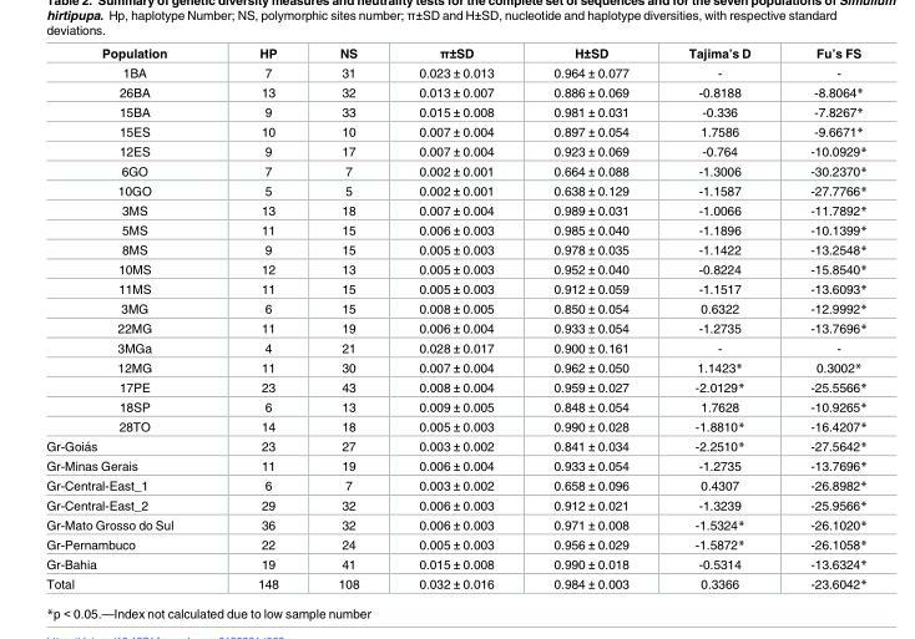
<table><thead><tr><td>Population</td><td>HP</td><td>NS</td><td>π±SD</td><td>H±SD</td><td>Tajima’s D</td><td>Fu’s FS</td></tr></thead><tbody><tr><td>1BA</td><td>7</td><td>31</td><td>0.023 ± 0.013</td><td>0.964 ± 0.077</td><td>-</td><td>-</td></tr><tr><td>26BA</td><td>13</td><td>32</td><td>0.013 ± 0.007</td><td>0.886 ± 0.069</td><td>-0.8188</td><td>-8.8064*</td></tr><tr><td>15BA</td><td>9</td><td>33</td><td>0.015 ± 0.008</td><td>0.981 ± 0.031</td><td>-0.336</td><td>-7.8267*</td></tr><tr><td>15ES</td><td>10</td><td>10</td><td>0.007 ± 0.004</td><td>0.897 ± 0.054</td><td>1.7586</td><td>-9.6671*</td></tr><tr><td>12ES</td><td>9</td><td>17</td><td>0.007 ± 0.004</td><td>0.923 ± 0.069</td><td>-0.764</td><td>-10.0929*</td></tr><tr><td>6GO</td><td>7</td><td>7</td><td>0.002 ± 0.001</td><td>0.664 ± 0.088</td><td>-1.3006</td><td>-30.2370*</td></tr><tr><td>10GO</td><td>5</td><td>5</td><td>0.002 ± 0.001</td><td>0.638 ± 0.129</td><td>-1.1587</td><td>-27.7766*</td></tr><tr><td>3MS</td><td>13</td><td>18</td><td>0.007 ± 0.004</td><td>0.989 ± 0.031</td><td>-1.0066</td><td>-11.7892*</td></tr><tr><td>5MS</td><td>11</td><td>15</td><td>0.006 ± 0.003</td><td>0.985 ± 0.040</td><td>-1.1896</td><td>-10.1399*</td></tr><tr><td>8MS</td><td>9</td><td>15</td><td>0.005 ± 0.003</td><td>0.978 ± 0.035</td><td>-1.1422</td><td>-13.2548*</td></tr><tr><td>10MS</td><td>12</td><td>13</td><td>0.005 ± 0.003</td><td>0.952 ± 0.040</td><td>-0.8224</td><td>-15.8540*</td></tr><tr><td>11MS</td><td>11</td><td>15</td><td>0.005 ± 0.003</td><td>0.912 ± 0.059</td><td>-1.1517</td><td>-13.6093*</td></tr><tr><td>3MG</td><td>6</td><td>15</td><td>0.008 ± 0.005</td><td>0.850 ± 0.054</td><td>0.6322</td><td>-12.9992*</td></tr><tr><td>22MG</td><td>11</td><td>19</td><td>0.006 ± 0.004</td><td>0.933 ± 0.054</td><td>-1.2735</td><td>-13.7696*</td></tr><tr><td>3MGa</td><td>4</td><td>21</td><td>0.028 ± 0.017</td><td>0.900 ± 0.161</td><td>-</td><td>-</td></tr><tr><td>12MG</td><td>11</td><td>30</td><td>0.007 ± 0.004</td><td>0.962 ± 0.050</td><td>1.1423*</td><td>0.3002*</td></tr><tr><td>17PE</td><td>23</td><td>43</td><td>0.008 ± 0.004</td><td>0.959 ± 0.027</td><td>-2.0129*</td><td>-25.5566*</td></tr><tr><td>18SP</td><td>6</td><td>13</td><td>0.009 ± 0.005</td><td>0.848 ± 0.054</td><td>1.7628</td><td>-10.9265*</td></tr><tr><td>28TO</td><td>14</td><td>18</td><td>0.005 ± 0.003</td><td>0.990 ± 0.028</td><td>-1.8810*</td><td>-16.4207*</td></tr><tr><td>Gr-Goia´s</td><td>23</td><td>27</td><td>0.003 ± 0.002</td><td>0.841 ± 0.034</td><td>-2.2510*</td><td>-27.5642*</td></tr><tr><td>Gr-Minas Gerais</td><td>11</td><td>19</td><td>0.006 ± 0.004</td><td>0.933 ± 0.054</td><td>-1.2735</td><td>-13.7696*</td></tr><tr><td>Gr-Central-East_1</td><td>6</td><td>7</td><td>0.003 ± 0.002</td><td>0.658 ± 0.096</td><td>0.4307</td><td>-26.8982*</td></tr><tr><td>Gr-Central-East_2</td><td>29</td><td>32</td><td>0.006 ± 0.003</td><td>0.912 ± 0.021</td><td>-1.3239</td><td>-25.9566*</td></tr><tr><td>Gr-Mato Grosso do Sul</td><td>36</td><td>32</td><td>0.006 ± 0.003</td><td>0.971 ± 0.008</td><td>-1.5324*</td><td>-26.1020*</td></tr><tr><td>Gr-Pernambuco</td><td>22</td><td>24</td><td>0.005 ± 0.003</td><td>0.956 ± 0.029</td><td>-1.5872*</td><td>-26.1058*</td></tr><tr><td>Gr-Bahia</td><td>19</td><td>41</td><td>0.015 ± 0.008</td><td>0.990 ± 0.018</td><td>-0.5314</td><td>-13.6324*</td></tr><tr><td>Total</td><td>148</td><td>108</td><td>0.032 ± 0.016</td><td>0.984 ± 0.003</td><td>0.3366</td><td>-23.6042*</td></tr></tbody></table>